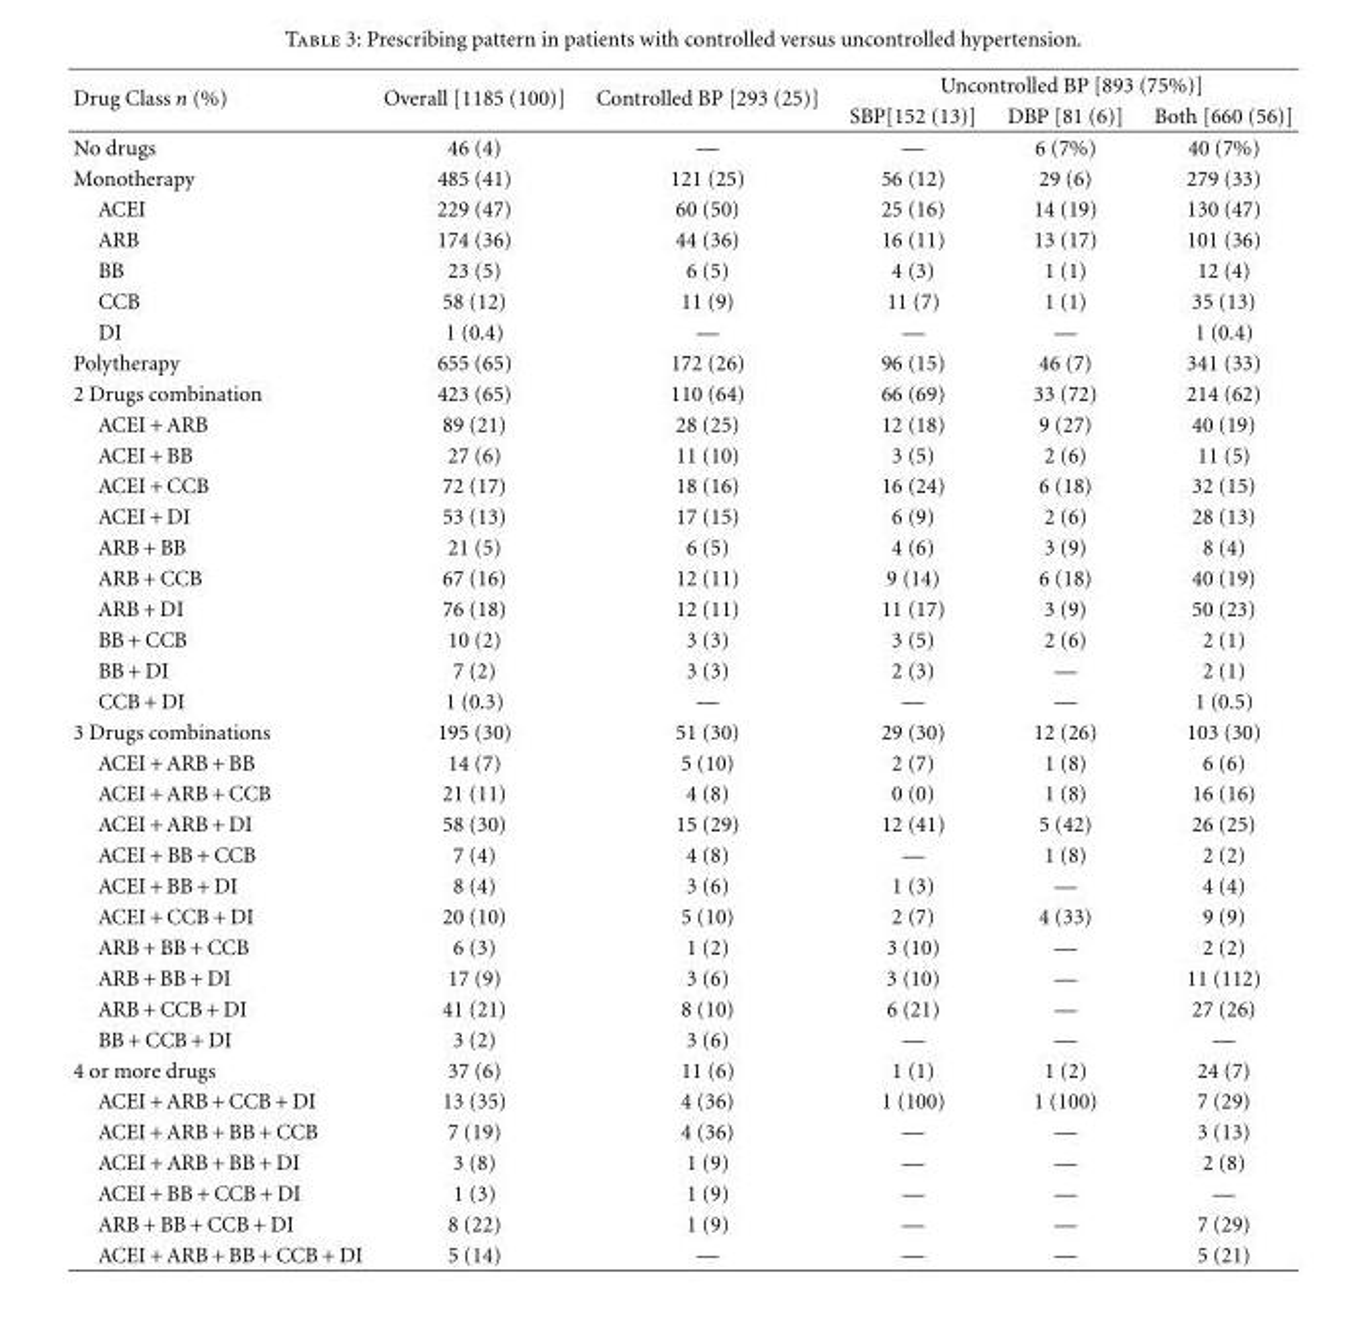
<table><thead><tr><td rowspan="2">Drug Class n (%)</td><td rowspan="2">Overall [1185 (100)]</td><td rowspan="2">Controlled BP [293 (25)]</td><td colspan="3">Uncontrolled BP [893 (75%)]</td></tr><tr><td>SBP[152 (13)]</td><td>DBP [81 (6)]</td><td>Both [660 (56)]</td></tr></thead><tbody><tr><td>No drugs</td><td>46 (4)</td><td>—</td><td>—</td><td>6 (7%)</td><td>40 (7%)</td></tr><tr><td>Monotherapy</td><td>485 (41)</td><td>121 (25)</td><td>56 (12)</td><td>29 (6)</td><td>279 (33)</td></tr><tr><td>ACEI</td><td>229 (47)</td><td>60 (50)</td><td>25 (16)</td><td>14 (19)</td><td>130 (47)</td></tr><tr><td>ARB</td><td>174 (36)</td><td>44 (36)</td><td>16 (11)</td><td>13 (17)</td><td>101 (36)</td></tr><tr><td>BB</td><td>23 (5)</td><td>6 (5)</td><td>4 (3)</td><td>1 (1)</td><td>12 (4)</td></tr><tr><td>CCB</td><td>58 (12)</td><td>11 (9)</td><td>11 (7)</td><td>1 (1)</td><td>35 (13)</td></tr><tr><td>DI</td><td>1 (0.4)</td><td>—</td><td>—</td><td>—</td><td>1 (0.4)</td></tr><tr><td>Polytherapy</td><td>655 (65)</td><td>172 (26)</td><td>96 (15)</td><td>46 (7)</td><td>341 (33)</td></tr><tr><td>2 Drugs combination</td><td>423 (65)</td><td>110 (64)</td><td>66 (69)</td><td>33 (72)</td><td>214 (62)</td></tr><tr><td>ACEI + ARB</td><td>89 (21)</td><td>28 (25)</td><td>12 (18)</td><td>9 (27)</td><td>40 (19)</td></tr><tr><td>ACEI + BB</td><td>27 (6)</td><td>11 (10)</td><td>3 (5)</td><td>2 (6)</td><td>11 (5)</td></tr><tr><td>ACEI + CCB</td><td>72 (17)</td><td>18 (16)</td><td>16 (24)</td><td>6 (18)</td><td>32 (15)</td></tr><tr><td>ACEI + DI</td><td>53 (13)</td><td>17 (15)</td><td>6 (9)</td><td>2 (6)</td><td>28 (13)</td></tr><tr><td>ARB + BB</td><td>21 (5)</td><td>6 (5)</td><td>4 (6)</td><td>3 (9)</td><td>8 (4)</td></tr><tr><td>ARB + CCB</td><td>67 (16)</td><td>12 (11)</td><td>9 (14)</td><td>6 (18)</td><td>40 (19)</td></tr><tr><td>ARB + DI</td><td>76 (18)</td><td>12 (11)</td><td>11 (17)</td><td>3 (9)</td><td>50 (23)</td></tr><tr><td>BB + CCB</td><td>10 (2)</td><td>3 (3)</td><td>3 (5)</td><td>2 (6)</td><td>2 (1)</td></tr><tr><td>BB + DI</td><td>7 (2)</td><td>3 (3)</td><td>2 (3)</td><td>—</td><td>2 (1)</td></tr><tr><td>CCB + DI</td><td>1 (0.3)</td><td>—</td><td>—</td><td>—</td><td>1 (0.5)</td></tr><tr><td>3 Drugs combinations</td><td>195 (30)</td><td>51 (30)</td><td>29 (30)</td><td>12 (26)</td><td>103 (30)</td></tr><tr><td>ACEI + ARB + BB</td><td>14 (7)</td><td>5 (10)</td><td>2 (7)</td><td>1 (8)</td><td>6 (6)</td></tr><tr><td>ACEI + ARB + CCB</td><td>21 (11)</td><td>4 (8)</td><td>0 (0)</td><td>1 (8)</td><td>16 (16)</td></tr><tr><td>ACEI + ARB + DI</td><td>58 (30)</td><td>15 (29)</td><td>12 (41)</td><td>5 (42)</td><td>26 (25)</td></tr><tr><td>ACEI + BB + CCB</td><td>7 (4)</td><td>4 (8)</td><td>—</td><td>1 (8)</td><td>2 (2)</td></tr><tr><td>ACEI + BB + DI</td><td>8 (4)</td><td>3 (6)</td><td>1 (3)</td><td>—</td><td>4 (4)</td></tr><tr><td>ACEI + CCB + DI</td><td>20 (10)</td><td>5 (10)</td><td>2 (7)</td><td>4 (33)</td><td>9 (9)</td></tr><tr><td>ARB + BB + CCB</td><td>6 (3)</td><td>1 (2)</td><td>3 (10)</td><td>—</td><td>2 (2)</td></tr><tr><td>ARB + BB + DI</td><td>17 (9)</td><td>3 (6)</td><td>3 (10)</td><td>—</td><td>11 (112)</td></tr><tr><td>ARB + CCB + DI</td><td>41 (21)</td><td>8 (10)</td><td>6 (21)</td><td>—</td><td>27 (26)</td></tr><tr><td>BB + CCB + DI</td><td>3 (2)</td><td>3 (6)</td><td>—</td><td>—</td><td>—</td></tr><tr><td>4 or more drugs</td><td>37 (6)</td><td>11 (6)</td><td>1 (1)</td><td>1 (2)</td><td>24 (7)</td></tr><tr><td>ACEI + ARB + CCB + DI</td><td>13 (35)</td><td>4 (36)</td><td>1 (100)</td><td>1 (100)</td><td>7 (29)</td></tr><tr><td>ACEI + ARB + BB + CCB</td><td>7 (19)</td><td>4 (36)</td><td>—</td><td>—</td><td>3 (13)</td></tr><tr><td>ACEI + ARB + BB + DI</td><td>3 (8)</td><td>1 (9)</td><td>—</td><td>—</td><td>2 (8)</td></tr><tr><td>ACEI + BB + CCB + DI</td><td>1 (3)</td><td>1 (9)</td><td>—</td><td>—</td><td>—</td></tr><tr><td>ARB + BB + CCB + DI</td><td>8 (22)</td><td>1 (9)</td><td>—</td><td>—</td><td>7 (29)</td></tr><tr><td>ACEI + ARB + BB + CCB + DI</td><td>5 (14)</td><td>—</td><td>—</td><td>—</td><td>5 (21)</td></tr></tbody></table>